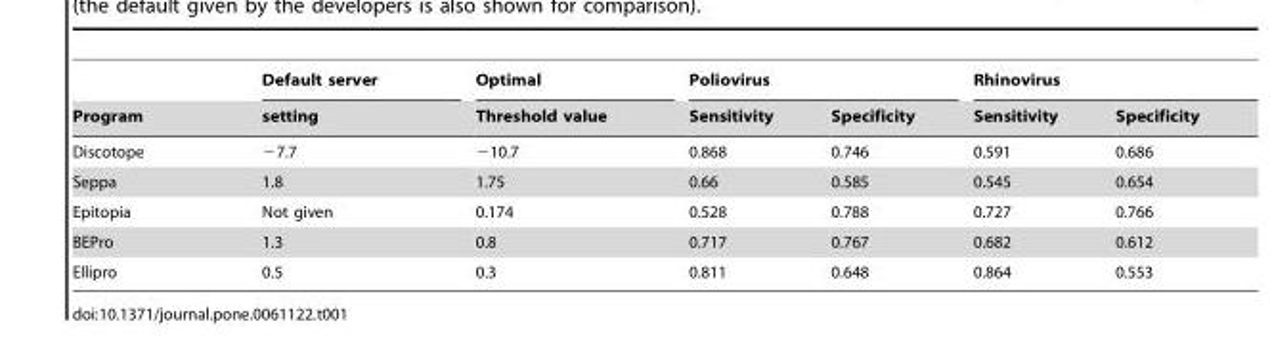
<table><thead><tr><td rowspan="2">Program</td><td rowspan="2">Default server setting</td><td rowspan="2">Optimal Threshold value</td><td colspan="2">Poliovirus</td><td colspan="2">Rhinovirus</td></tr><tr><td>Sensitivity</td><td>Specificity</td><td>Sensitivity</td><td>Specificity</td></tr></thead><tbody><tr><td>Discotope</td><td>−7.7</td><td>−10.7</td><td>0.868</td><td>0.746</td><td>0.591</td><td>0.686</td></tr><tr><td>Seppa</td><td>1.8</td><td>1.75</td><td>0.66</td><td>0.585</td><td>0.545</td><td>0.654</td></tr><tr><td>Epitopia</td><td>Not given</td><td>0.174</td><td>0.528</td><td>0.788</td><td>0.727</td><td>0.766</td></tr><tr><td>BEPro</td><td>1.3</td><td>0.8</td><td>0.717</td><td>0.767</td><td>0.682</td><td>0.612</td></tr><tr><td>Ellipro</td><td>0.5</td><td>0.3</td><td>0.811</td><td>0.648</td><td>0.864</td><td>0.553</td></tr></tbody></table>